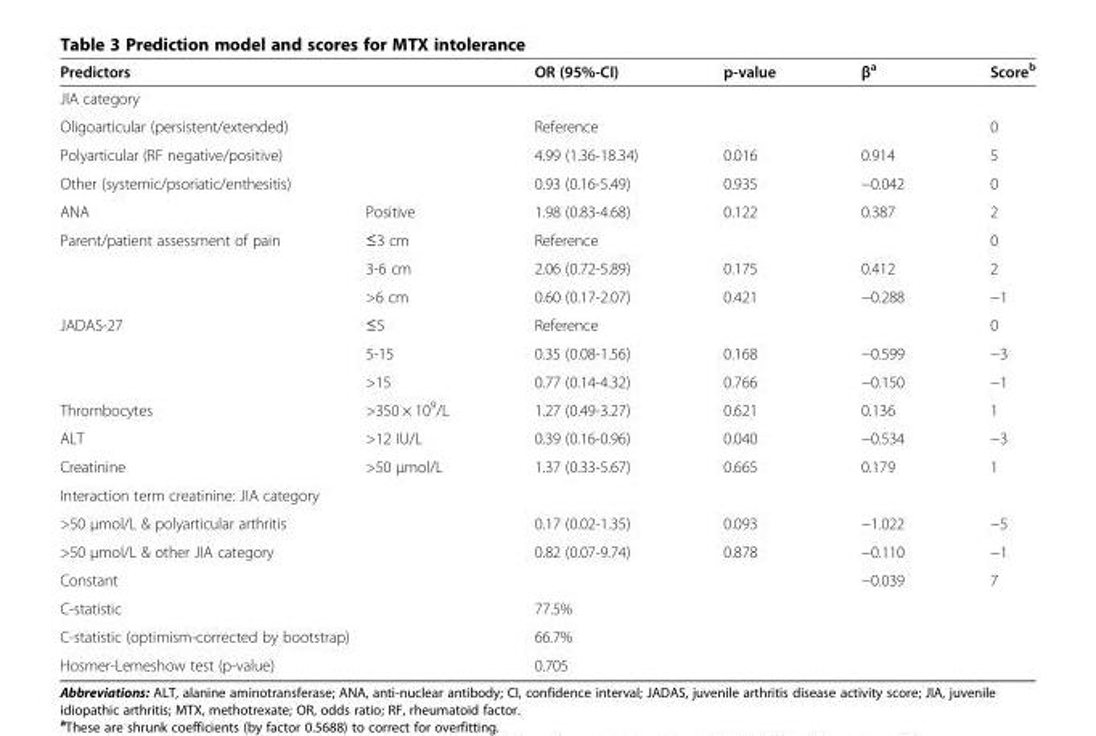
<table><thead><tr><td colspan="2">Predictors</td><td rowspan="2">OR (95%-CI)</td><td rowspan="2">p-value</td><td rowspan="2">β<sup>a</sup></td><td rowspan="2">Score<sup>b</sup></td></tr><tr><td>JIA category</td><td></td></tr></thead><tbody><tr><td colspan="2">Oligoarticular (persistent/extended)</td><td colspan="3">Reference</td><td>0</td></tr><tr><td colspan="2">Polyarticular (RF negative/positive)</td><td>4.99 (1.36-18.34)</td><td>0.016</td><td>0.914</td><td>5</td></tr><tr><td colspan="2">Other (systemic/psoriatic/enthesitis)</td><td>0.93 (0.16-5.49)</td><td>0.935</td><td>−0.042</td><td>0</td></tr><tr><td>ANA</td><td>Positive</td><td>1.98 (0.83-4.68)</td><td>0.122</td><td>0.387</td><td>2</td></tr><tr><td rowspan="3">Parent/patient assessment of pain</td><td>≤3 cm</td><td colspan="3">Reference</td><td>0</td></tr><tr><td>3-6 cm</td><td>2.06 (0.72-5.89)</td><td>0.175</td><td>0.412</td><td>2</td></tr><tr><td>&gt;6 cm</td><td>0.60 (0.17-2.07)</td><td>0.421</td><td>−0.288</td><td>−1</td></tr><tr><td rowspan="3">JADAS-27</td><td>≤5</td><td colspan="3">Reference</td><td>0</td></tr><tr><td>5-15</td><td>0.35 (0.08-1.56)</td><td>0.168</td><td>−0.599</td><td>−3</td></tr><tr><td>&gt;15</td><td>0.77 (0.14-4.32)</td><td>0.766</td><td>−0.150</td><td>−1</td></tr><tr><td>Thrombocytes</td><td>&gt;350 × 10<sup>9</sup>/L</td><td>1.27 (0.49-3.27)</td><td>0.621</td><td>0.136</td><td>1</td></tr><tr><td>ALT</td><td>&gt;12 IU/L</td><td>0.39 (0.16-0.96)</td><td>0.040</td><td>−0.534</td><td>−3</td></tr><tr><td>Creatinine</td><td>&gt;50 μmol/L</td><td>1.37 (0.33-5.67)</td><td>0.665</td><td>0.179</td><td>1</td></tr><tr><td colspan="6">Interaction term creatinine: JIA category</td></tr><tr><td colspan="2">&gt;50 μmol/L &amp; polyarticular arthritis</td><td>0.17 (0.02-1.35)</td><td>0.093</td><td>−1.022</td><td>−5</td></tr><tr><td colspan="2">&gt;50 μmol/L &amp; other JIA category</td><td>0.82 (0.07-9.74)</td><td>0.878</td><td>−0.110</td><td>−1</td></tr><tr><td>Constant</td><td></td><td></td><td></td><td>−0.039</td><td>7</td></tr><tr><td colspan="2">C-statistic</td><td colspan="4">77.5%</td></tr><tr><td colspan="2">C-statistic (optimism-corrected by bootstrap)</td><td colspan="4">66.7%</td></tr><tr><td colspan="2">Hosmer-Lemeshow test (p-value)</td><td colspan="4">0.705</td></tr></tbody></table>